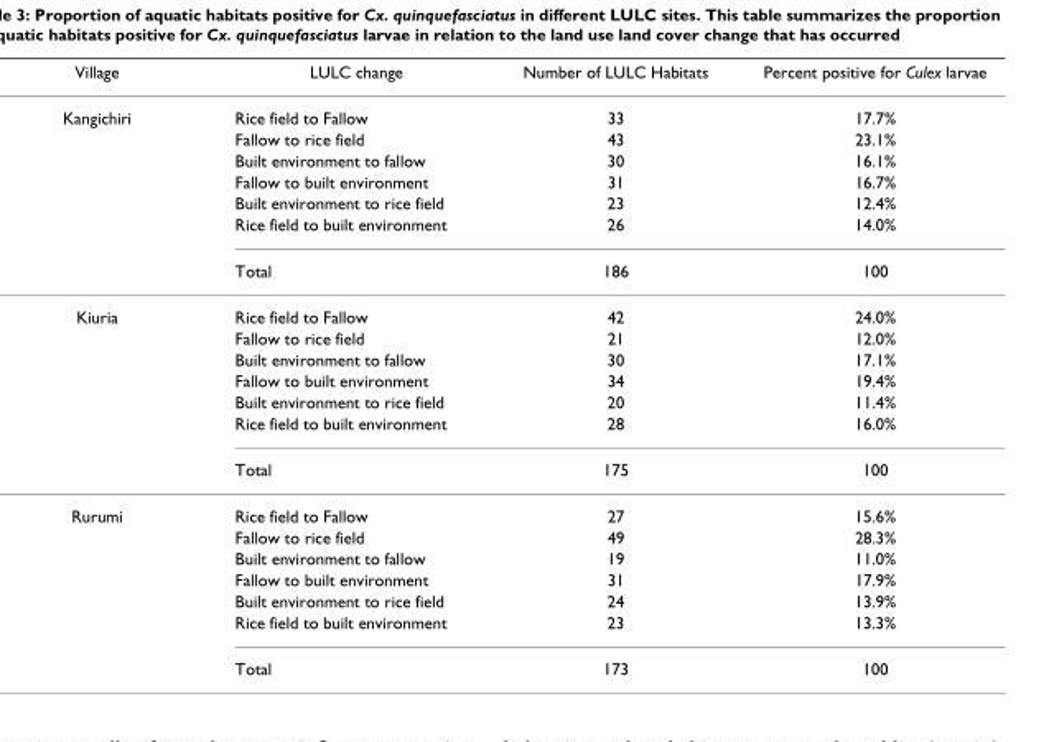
<table><thead><tr><td>Village</td><td>LULC change</td><td>Number of LULC Habitats</td><td>Percent positive for Culex larvae</td></tr></thead><tbody><tr><td rowspan="7">Kangichiri</td><td>Rice field to Fallow</td><td>33</td><td>17.7%</td></tr><tr><td>Fallow to rice field</td><td>43</td><td>23.1%</td></tr><tr><td>Built environment to fallow</td><td>30</td><td>16.1%</td></tr><tr><td>Fallow to built environment</td><td>31</td><td>16.7%</td></tr><tr><td>Built environment to rice field</td><td>23</td><td>12.4%</td></tr><tr><td>Rice field to built environment</td><td>26</td><td>14.0%</td></tr><tr><td>Total</td><td>186</td><td>100</td></tr><tr><td rowspan="7">Kiuria</td><td>Rice field to Fallow</td><td>42</td><td>24.0%</td></tr><tr><td>Fallow to rice field</td><td>21</td><td>12.0%</td></tr><tr><td>Built environment to fallow</td><td>30</td><td>17.1%</td></tr><tr><td>Fallow to built environment</td><td>34</td><td>19.4%</td></tr><tr><td>Built environment to rice field</td><td>20</td><td>11.4%</td></tr><tr><td>Rice field to built environment</td><td>28</td><td>16.0%</td></tr><tr><td>Total</td><td>175</td><td>100</td></tr><tr><td rowspan="7">Rurumi</td><td>Rice field to Fallow</td><td>27</td><td>15.6%</td></tr><tr><td>Fallow to rice field</td><td>49</td><td>28.3%</td></tr><tr><td>Built environment to fallow</td><td>19</td><td>11.0%</td></tr><tr><td>Fallow to built environment</td><td>31</td><td>17.9%</td></tr><tr><td>Built environment to rice field</td><td>24</td><td>13.9%</td></tr><tr><td>Rice field to built environment</td><td>23</td><td>13.3%</td></tr><tr><td>Total</td><td>173</td><td>100</td></tr></tbody></table>